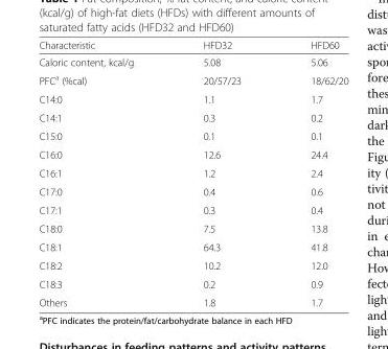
<table><thead><tr><td>Characteristic</td><td>HFD32</td><td>HFD60</td></tr></thead><tbody><tr><td>Caloric content, kcal/g</td><td>5.08</td><td>5.06</td></tr><tr><td>PFC<sup>a</sup> (%cal)</td><td>20/57/23</td><td>18/62/20</td></tr><tr><td>C14:0</td><td>1.1</td><td>1.7</td></tr><tr><td>C14:1</td><td>0.3</td><td>0.2</td></tr><tr><td>C15:0</td><td>0.1</td><td>0.1</td></tr><tr><td>C16:0</td><td>12.6</td><td>24.4</td></tr><tr><td>C16:1</td><td>1.2</td><td>2.4</td></tr><tr><td>C17:0</td><td>0.4</td><td>0.6</td></tr><tr><td>C17:1</td><td>0.3</td><td>0.4</td></tr><tr><td>C18:0</td><td>7.5</td><td>13.8</td></tr><tr><td>C18:1</td><td>64.3</td><td>41.8</td></tr><tr><td>C18:2</td><td>10.2</td><td>12.0</td></tr><tr><td>C18:3</td><td>0.2</td><td>0.9</td></tr><tr><td>Others</td><td>1.8</td><td>1.7</td></tr></tbody></table>